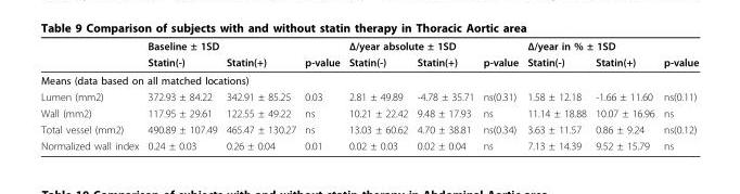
<table><thead><tr><td rowspan="2"></td><td colspan="2">Baseline ± 1SD</td><td rowspan="2">p-value</td><td colspan="2">Δ/year absolute ± 1SD</td><td rowspan="2">p-value</td><td colspan="2">Δ/year in % ± 1SD</td><td rowspan="2">p-value</td></tr><tr><td>Statin(-)</td><td>Statin(+)</td><td>Statin(-)</td><td>Statin(+)</td><td>Statin(-)</td><td>Statin(+)</td></tr></thead><tbody><tr><td colspan="10">Means (data based on all matched locations)</td></tr><tr><td>Lumen (mm2)</td><td>372.93 ± 84.22</td><td>342.91 ± 85.25</td><td>0.03</td><td>2.81 ± 49.89</td><td>-4.78 ± 35.71</td><td>ns(0.31)</td><td>1.58 ± 12.18</td><td>-1.66 ± 11.60</td><td>ns(0.11)</td></tr><tr><td>Wall (mm2)</td><td>117.95 ± 29.61</td><td>122.55 ± 49.22</td><td>ns</td><td>10.21 ± 22.42</td><td>9.48 ± 17.93</td><td>ns</td><td>11.14 ± 18.88</td><td>10.07 ± 16.96</td><td>ns</td></tr><tr><td>Total vessel (mm2)</td><td>490.89 ± 107.49</td><td>465.47 ± 130.27</td><td>ns</td><td>13.03 ± 60.62</td><td>4.70 ± 38.81</td><td>ns(0.34)</td><td>3.63 ± 11.57</td><td>0.86 ± 9.24</td><td>ns(0.12)</td></tr><tr><td>Normalized wall index</td><td>0.24 ± 0.03</td><td>0.26 ± 0.04</td><td>0.01</td><td>0.02 ± 0.03</td><td>0.02 ± 0.04</td><td>ns</td><td>7.13 ± 14.39</td><td>9.52 ± 15.79</td><td>ns</td></tr></tbody></table>